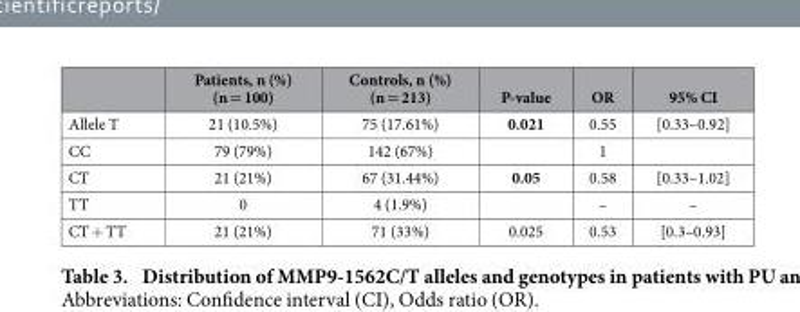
<table><thead><tr><td></td><td>Patients, n (%) (n = 100)</td><td>Controls, n (%) (n = 213)</td><td>P-value</td><td>OR</td><td>95% CI</td></tr></thead><tbody><tr><td>Allele T</td><td>21 (10.5%)</td><td>75 (17.61%)</td><td>0.021</td><td>0.55</td><td>[0.33–0.92]</td></tr><tr><td>CC</td><td>79 (79%)</td><td>142 (67%)</td><td></td><td>1</td><td></td></tr><tr><td>CT</td><td>21 (21%)</td><td>67 (31.44%)</td><td>0.05</td><td>0.58</td><td>[0.33–1.02]</td></tr><tr><td>TT</td><td>0</td><td>4 (1.9%)</td><td></td><td>–</td><td>–</td></tr><tr><td>CT + TT</td><td>21 (21%)</td><td>71 (33%)</td><td>0.025</td><td>0.53</td><td>[0.3–0.93]</td></tr></tbody></table>